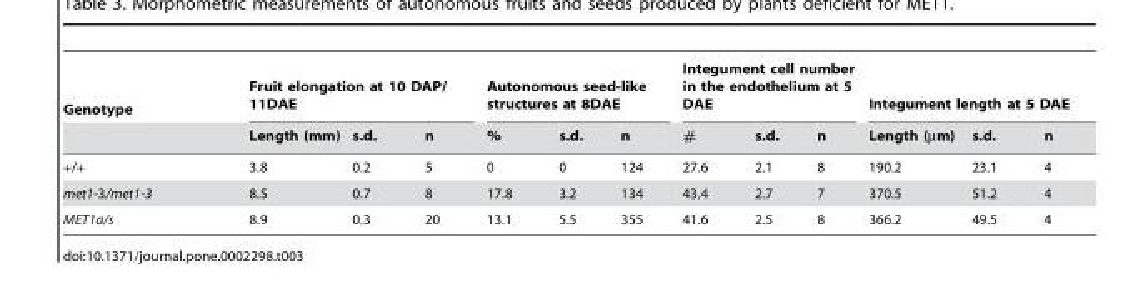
<table><thead><tr><td rowspan="2">Genotype</td><td colspan="3">Fruit elongation at 10 DAP/ 11DAE</td><td colspan="3">Autonomous seed-like structures at 8DAE</td><td colspan="3">Integument cell number in the endothelium at 5 DAE</td><td colspan="3">Integument length at 5 DAE</td></tr><tr><td>Length (mm)</td><td>s.d.</td><td>n</td><td>%</td><td>s.d.</td><td>n</td><td>#</td><td>s.d.</td><td>n</td><td>Length (µm)</td><td>s.d.</td><td>n</td></tr></thead><tbody><tr><td>+/+</td><td>3.8</td><td>0.2</td><td>5</td><td>0</td><td>0</td><td>124</td><td>27.6</td><td>2.1</td><td>8</td><td>190.2</td><td>23.1</td><td>4</td></tr><tr><td>met1-3/met1-3</td><td>8.5</td><td>0.7</td><td>8</td><td>17.8</td><td>3.2</td><td>134</td><td>43.4</td><td>2.7</td><td>7</td><td>370.5</td><td>51.2</td><td>4</td></tr><tr><td>MET1a/s</td><td>8.9</td><td>0.3</td><td>20</td><td>13.1</td><td>5.5</td><td>355</td><td>41.6</td><td>2.5</td><td>8</td><td>366.2</td><td>49.5</td><td>4</td></tr></tbody></table>